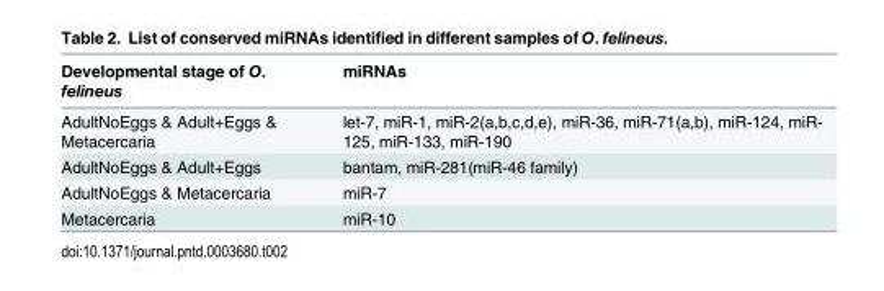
<table><thead><tr><td>Developmental stage of O. felineus</td><td>miRNAs</td></tr></thead><tbody><tr><td>AdultNoEggs &amp; Adult+Eggs &amp; Metacercaria</td><td>let-7, miR-1, miR-2(a,b,c,d,e), miR-36, miR-71(a,b), miR-124, miR- 125, miR-133, miR-190</td></tr><tr><td>AdultNoEggs &amp; Adult+Eggs</td><td>bantam, miR-281(miR-46 family)</td></tr><tr><td>AdultNoEggs &amp; Metacercaria</td><td>miR-7</td></tr><tr><td>Metacercaria</td><td>miR-10</td></tr></tbody></table>